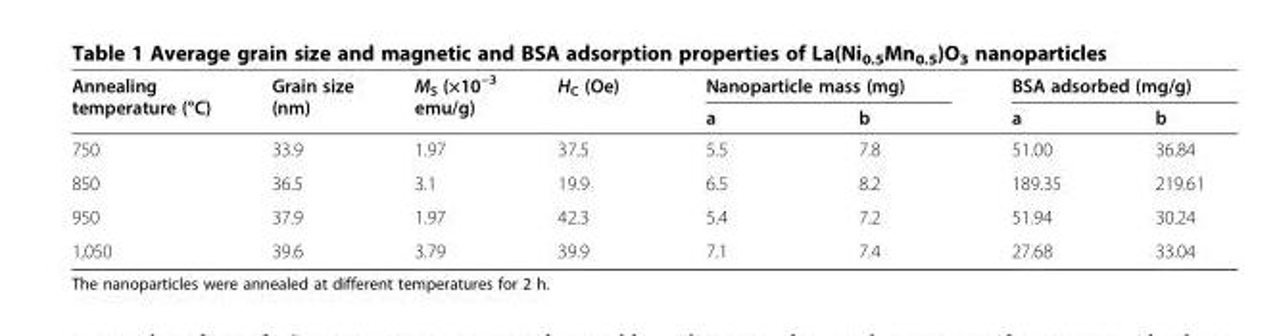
<table><thead><tr><td rowspan="2">Annealing temperature (°C)</td><td rowspan="2">Grain size (nm)</td><td rowspan="2">M<sub>S</sub> (×10<sup>−3</sup> emu/g)</td><td rowspan="2">H<sub>C</sub> (Oe)</td><td colspan="2">Nanoparticle mass (mg)</td><td colspan="2">BSA adsorbed (mg/g)</td></tr><tr><td>a</td><td>b</td><td>a</td><td>b</td></tr></thead><tbody><tr><td>750</td><td>33.9</td><td>1.97</td><td>37.5</td><td>5.5</td><td>7.8</td><td>51.00</td><td>36.84</td></tr><tr><td>850</td><td>36.5</td><td>3.1</td><td>19.9</td><td>6.5</td><td>8.2</td><td>189.35</td><td>219.61</td></tr><tr><td>950</td><td>37.9</td><td>1.97</td><td>42.3</td><td>5.4</td><td>7.2</td><td>51.94</td><td>30.24</td></tr><tr><td>1,050</td><td>39.6</td><td>3.79</td><td>39.9</td><td>7.1</td><td>7.4</td><td>27.68</td><td>33.04</td></tr></tbody></table>